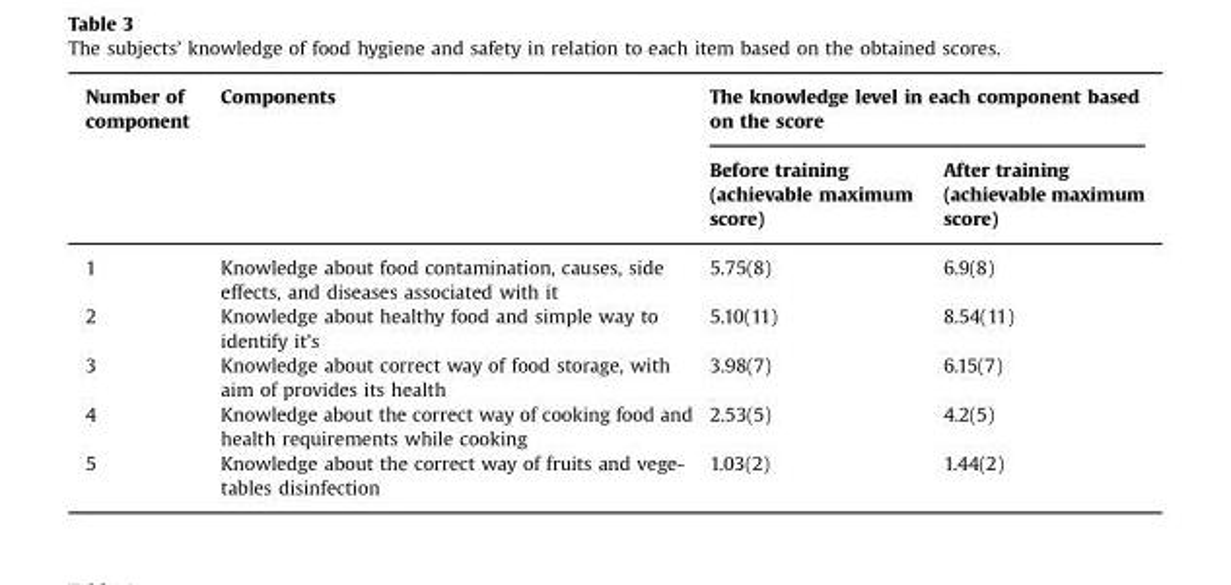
<table><thead><tr><td rowspan="2">Number of component</td><td rowspan="2">Components</td><td colspan="2">The knowledge level in each component based on the score</td></tr><tr><td>Before training (achievable maximum score)</td><td>After training (achievable maximum score)</td></tr></thead><tbody><tr><td>1</td><td>Knowledge about food contamination, causes, side effects, and diseases associated with it</td><td>5.75(8)</td><td>6.9(8)</td></tr><tr><td>2</td><td>Knowledge about healthy food and simple way to identify it’s</td><td>5.10(11)</td><td>8.54(11)</td></tr><tr><td>3</td><td>Knowledge about correct way of food storage, with aim of provides its health</td><td>3.98(7)</td><td>6.15(7)</td></tr><tr><td>4</td><td>Knowledge about the correct way of cooking food and health requirements while cooking</td><td>2.53(5)</td><td>4.2(5)</td></tr><tr><td>5</td><td>Knowledge about the correct way of fruits and vege- tables disinfection</td><td>1.03(2)</td><td>1.44(2)</td></tr></tbody></table>